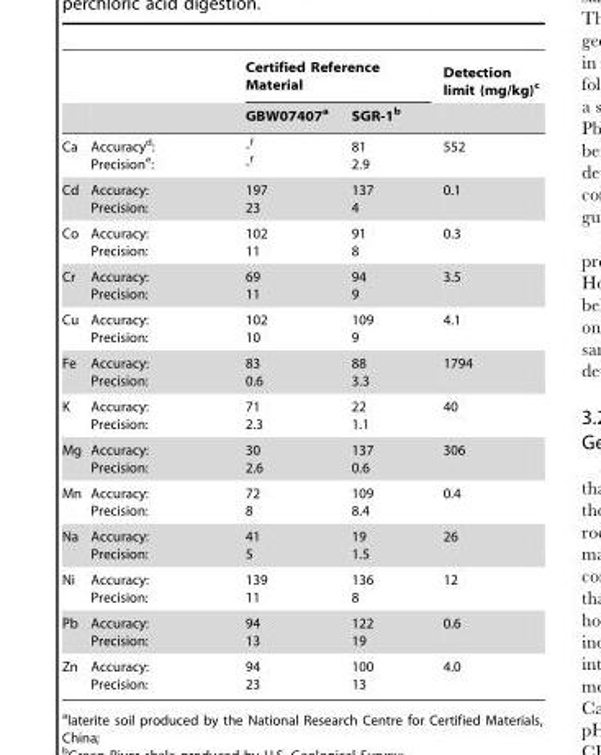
<table><thead><tr><td rowspan="2"></td><td rowspan="2"></td><td colspan="2">Certified Reference Material</td><td rowspan="2">Detection limit (mg/kg)<sup>c</sup></td></tr><tr><td>GBW07407<sup>a</sup></td><td>SGR-1<sup>b</sup></td></tr></thead><tbody><tr><td>Ca</td><td>Accuracy<sup>d</sup>: Precision<sup>e</sup>:</td><td>-f -f</td><td>81 2.9</td><td>552</td></tr><tr><td>Cd</td><td>Accuracy: Precision:</td><td>197 23</td><td>137 4</td><td>0.1</td></tr><tr><td>Co</td><td>Accuracy: Precision:</td><td>102 11</td><td>91 8</td><td>0.3</td></tr><tr><td>Cr</td><td>Accuracy: Precision:</td><td>69 11</td><td>94 9</td><td>3.5</td></tr><tr><td>Cu</td><td>Accuracy: Precision:</td><td>102 10</td><td>109 9</td><td>4.1</td></tr><tr><td>Fe</td><td>Accuracy: Precision:</td><td>83 0.6</td><td>88 3.3</td><td>1794</td></tr><tr><td>K</td><td>Accuracy: Precision:</td><td>71 2.3</td><td>22 1.1</td><td>40</td></tr><tr><td>Mg</td><td>Accuracy: Precision:</td><td>30 2.6</td><td>137 0.6</td><td>306</td></tr><tr><td>Mn</td><td>Accuracy: Precision:</td><td>72 8</td><td>109 8.4</td><td>0.4</td></tr><tr><td>Na</td><td>Accuracy: Precision:</td><td>41 5</td><td>19 1.5</td><td>26</td></tr><tr><td>Ni</td><td>Accuracy: Precision:</td><td>139 11</td><td>136 8</td><td>12</td></tr><tr><td>Pb</td><td>Accuracy: Precision:</td><td>94 13</td><td>122 19</td><td>0.6</td></tr><tr><td>Zn</td><td>Accuracy: Precision:</td><td>94 23</td><td>100 13</td><td>4.0</td></tr></tbody></table>